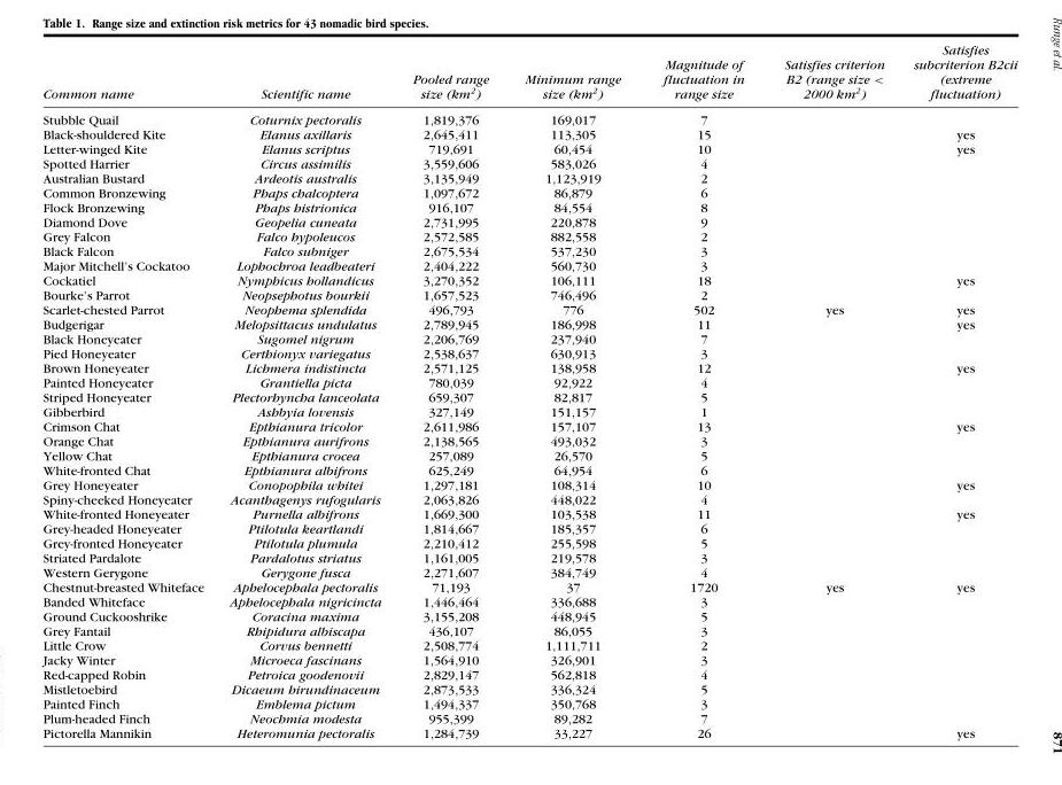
<table><thead><tr><td>Common name</td><td>Scientific name</td><td>Pooled range size (km<sup>2</sup>)</td><td>Minimum range size (km<sup>2</sup>)</td><td>Magnitude of fluctuation in range size</td><td>Satisfies criterion B2 (range size &lt; 2000 km<sup>2</sup>)</td><td>Satisfies subcriterion B2cii (extreme fluctuation)</td></tr></thead><tbody><tr><td>Stubble Quail</td><td>Coturnix pectoralis</td><td>1,819,376</td><td>169,017</td><td>7</td><td></td><td></td></tr><tr><td>Black-shouldered Kite</td><td>Elanus axillaris</td><td>2,645,411</td><td>113,305</td><td>15</td><td></td><td>yes</td></tr><tr><td>Letter-winged Kite</td><td>Elanus scriptus</td><td>719,691</td><td>60,454</td><td>10</td><td></td><td>yes</td></tr><tr><td>Spotted Harrier</td><td>Circus assimilis</td><td>3,559,606</td><td>583,026</td><td>4</td><td></td><td></td></tr><tr><td>Australian Bustard</td><td>Ardeotis australis</td><td>3,135,949</td><td>1,123,919</td><td>2</td><td></td><td></td></tr><tr><td>Common Bronzewing</td><td>Phaps chalcoptera</td><td>1,097,672</td><td>86,879</td><td>6</td><td></td><td></td></tr><tr><td>Flock Bronzewing</td><td>Phaps histrionica</td><td>916,107</td><td>84,554</td><td>8</td><td></td><td></td></tr><tr><td>Diamond Dove</td><td>Geopelia cuneata</td><td>2,731,995</td><td>220,878</td><td>9</td><td></td><td></td></tr><tr><td>Grey Falcon</td><td>Falco hypoleucos</td><td>2,572,585</td><td>882,558</td><td>2</td><td></td><td></td></tr><tr><td>Black Falcon</td><td>Falco subniger</td><td>2,675,534</td><td>537,230</td><td>3</td><td></td><td></td></tr><tr><td>Major Mitchell’s Cockatoo</td><td>Lophochroa leadbeateri</td><td>2,404,222</td><td>560,730</td><td>3</td><td></td><td></td></tr><tr><td>Cockatiel</td><td>Nymphicus hollandicus</td><td>3,270,352</td><td>106,111</td><td>18</td><td></td><td>yes</td></tr><tr><td>Bourke’s Parrot</td><td>Neopsephotus bourkii</td><td>1,657,523</td><td>746,496</td><td>2</td><td></td><td></td></tr><tr><td>Scarlet-chested Parrot</td><td>Neophema splendida</td><td>496,793</td><td>776</td><td>502</td><td>yes</td><td>yes</td></tr><tr><td>Budgerigar</td><td>Melopsittacus undulatus</td><td>2,789,945</td><td>186,998</td><td>11</td><td></td><td>yes</td></tr><tr><td>Black Honeyeater</td><td>Sugomel nigrum</td><td>2,206,769</td><td>237,940</td><td>7</td><td></td><td></td></tr><tr><td>Pied Honeyeater</td><td>Certhionyx variegatus</td><td>2,538,637</td><td>630,913</td><td>3</td><td></td><td></td></tr><tr><td>Brown Honeyeater</td><td>Lichmera indistincta</td><td>2,571,125</td><td>138,958</td><td>12</td><td></td><td>yes</td></tr><tr><td>Painted Honeyeater</td><td>Grantiella picta</td><td>780,039</td><td>92,922</td><td>4</td><td></td><td></td></tr><tr><td>Striped Honeyeater</td><td>Plectorhyncha lanceolata</td><td>659,307</td><td>82,817</td><td>5</td><td></td><td></td></tr><tr><td>Gibberbird</td><td>Ashbyia lovensis</td><td>327,149</td><td>151,157</td><td>1</td><td></td><td></td></tr><tr><td>Crimson Chat</td><td>Epthianura tricolor</td><td>2,611,986</td><td>157,107</td><td>13</td><td></td><td>yes</td></tr><tr><td>Orange Chat</td><td>Epthianura aurifrons</td><td>2,138,565</td><td>493,032</td><td>3</td><td></td><td></td></tr><tr><td>Yellow Chat</td><td>Epthianura crocea</td><td>257,089</td><td>26,570</td><td>5</td><td></td><td></td></tr><tr><td>White-fronted Chat</td><td>Epthianura albifrons</td><td>625,249</td><td>64,954</td><td>6</td><td></td><td></td></tr><tr><td>Grey Honeyeater</td><td>Conopophila whitei</td><td>1,297,181</td><td>108,314</td><td>10</td><td></td><td>yes</td></tr><tr><td>Spiny-cheeked Honeyeater</td><td>Acanthagenys rufogularis</td><td>2,063,826</td><td>448,022</td><td>4</td><td></td><td></td></tr><tr><td>White-fronted Honeyeater</td><td>Purnella albifrons</td><td>1,669,300</td><td>103,538</td><td>11</td><td></td><td>yes</td></tr><tr><td>Grey-headed Honeyeater</td><td>Ptilotula keartlandi</td><td>1,814,667</td><td>185,357</td><td>6</td><td></td><td></td></tr><tr><td>Grey-fronted Honeyeater</td><td>Ptilotula plumula</td><td>2,210,412</td><td>255,598</td><td>5</td><td></td><td></td></tr><tr><td>Striated Pardalote</td><td>Pardalotus striatus</td><td>1,161,005</td><td>219,578</td><td>3</td><td></td><td></td></tr><tr><td>Western Gerygone</td><td>Gerygone fusca</td><td>2,271,607</td><td>384,749</td><td>4</td><td></td><td></td></tr><tr><td>Chestnut-breasted Whiteface</td><td>Aphelocephala pectoralis</td><td>71,193</td><td>37</td><td>1720</td><td>yes</td><td>yes</td></tr><tr><td>Banded Whiteface</td><td>Aphelocephala nigricincta</td><td>1,446,464</td><td>336,688</td><td>3</td><td></td><td></td></tr><tr><td>Ground Cuckooshrike</td><td>Coracina maxima</td><td>3,155,208</td><td>448,945</td><td>5</td><td></td><td></td></tr><tr><td>Grey Fantail</td><td>Rhipidura albiscapa</td><td>436,107</td><td>86,055</td><td>3</td><td></td><td></td></tr><tr><td>Little Crow</td><td>Corvus bennetti</td><td>2,508,774</td><td>1,111,711</td><td>2</td><td></td><td></td></tr><tr><td>Jacky Winter</td><td>Microeca fascinans</td><td>1,564,910</td><td>326,901</td><td>3</td><td></td><td></td></tr><tr><td>Red-capped Robin</td><td>Petroica goodenovii</td><td>2,829,147</td><td>562,818</td><td>4</td><td></td><td></td></tr><tr><td>Mistletoebird</td><td>Dicaeum hirundinaceum</td><td>2,873,533</td><td>336,324</td><td>5</td><td></td><td></td></tr><tr><td>Painted Finch</td><td>Emblema pictum</td><td>1,494,337</td><td>350,768</td><td>3</td><td></td><td></td></tr><tr><td>Plum-headed Finch</td><td>Neochmia modesta</td><td>955,399</td><td>89,282</td><td>7</td><td></td><td></td></tr><tr><td>Pictorella Mannikin</td><td>Heteromunia pectoralis</td><td>1,284,739</td><td>33,227</td><td>26</td><td></td><td>yes</td></tr></tbody></table>